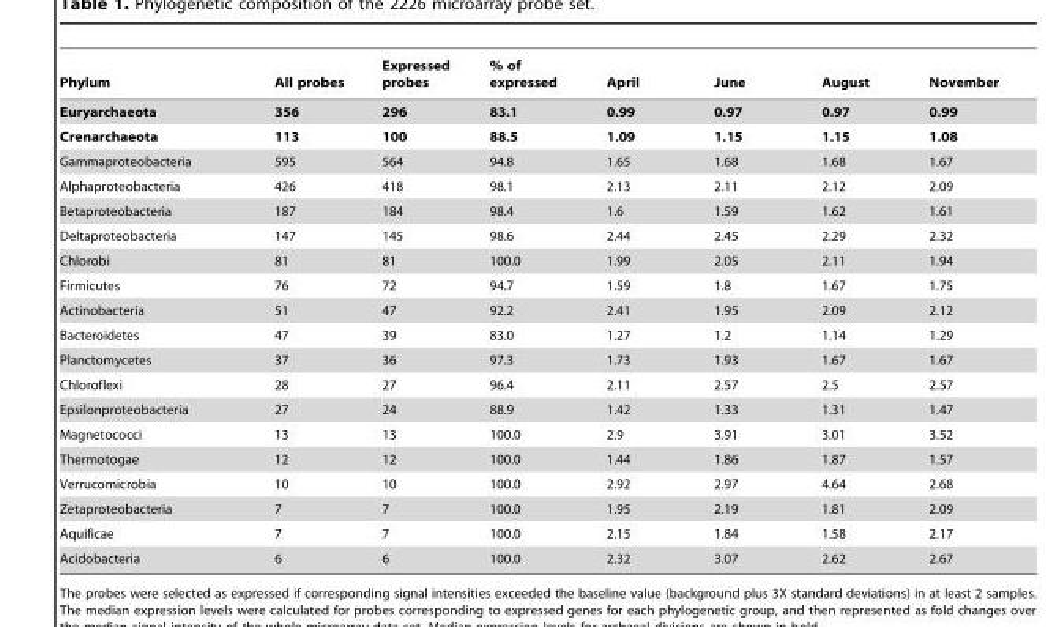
<table><thead><tr><td>Phylum</td><td>All probes</td><td>Expressed probes</td><td>% of expressed</td><td>April</td><td>June</td><td>August</td><td>November</td></tr></thead><tbody><tr><td>Euryarchaeota</td><td>356</td><td>296</td><td>83.1</td><td>0.99</td><td>0.97</td><td>0.97</td><td>0.99</td></tr><tr><td>Crenarchaeota</td><td>113</td><td>100</td><td>88.5</td><td>1.09</td><td>1.15</td><td>1.15</td><td>1.08</td></tr><tr><td>Gammaproteobacteria</td><td>595</td><td>564</td><td>94.8</td><td>1.65</td><td>1.68</td><td>1.68</td><td>1.67</td></tr><tr><td>Alphaproteobacteria</td><td>426</td><td>418</td><td>98.1</td><td>2.13</td><td>2.11</td><td>2.12</td><td>2.09</td></tr><tr><td>Betaproteobacteria</td><td>187</td><td>184</td><td>98.4</td><td>1.6</td><td>1.59</td><td>1.62</td><td>1.61</td></tr><tr><td>Deltaproteobacteria</td><td>147</td><td>145</td><td>98.6</td><td>2.44</td><td>2.45</td><td>2.29</td><td>2.32</td></tr><tr><td>Chlorobi</td><td>81</td><td>81</td><td>100.0</td><td>1.99</td><td>2.05</td><td>2.11</td><td>1.94</td></tr><tr><td>Firmicutes</td><td>76</td><td>72</td><td>94.7</td><td>1.59</td><td>1.8</td><td>1.67</td><td>1.75</td></tr><tr><td>Actinobacteria</td><td>51</td><td>47</td><td>92.2</td><td>2.41</td><td>1.95</td><td>2.09</td><td>2.12</td></tr><tr><td>Bacteroidetes</td><td>47</td><td>39</td><td>83.0</td><td>1.27</td><td>1.2</td><td>1.14</td><td>1.29</td></tr><tr><td>Planctomycetes</td><td>37</td><td>36</td><td>97.3</td><td>1.73</td><td>1.93</td><td>1.67</td><td>1.67</td></tr><tr><td>Chloroflexi</td><td>28</td><td>27</td><td>96.4</td><td>2.11</td><td>2.57</td><td>2.5</td><td>2.57</td></tr><tr><td>Epsilonproteobacteria</td><td>27</td><td>24</td><td>88.9</td><td>1.42</td><td>1.33</td><td>1.31</td><td>1.47</td></tr><tr><td>Magnetococci</td><td>13</td><td>13</td><td>100.0</td><td>2.9</td><td>3.91</td><td>3.01</td><td>3.52</td></tr><tr><td>Thermotogae</td><td>12</td><td>12</td><td>100.0</td><td>1.44</td><td>1.86</td><td>1.87</td><td>1.57</td></tr><tr><td>Verrucomicrobia</td><td>10</td><td>10</td><td>100.0</td><td>2.92</td><td>2.97</td><td>4.64</td><td>2.68</td></tr><tr><td>Zetaproteobacteria</td><td>7</td><td>7</td><td>100.0</td><td>1.95</td><td>2.19</td><td>1.81</td><td>2.09</td></tr><tr><td>Aquificae</td><td>7</td><td>7</td><td>100.0</td><td>2.15</td><td>1.84</td><td>1.58</td><td>2.17</td></tr><tr><td>Acidobacteria</td><td>6</td><td>6</td><td>100.0</td><td>2.32</td><td>3.07</td><td>2.62</td><td>2.67</td></tr></tbody></table>